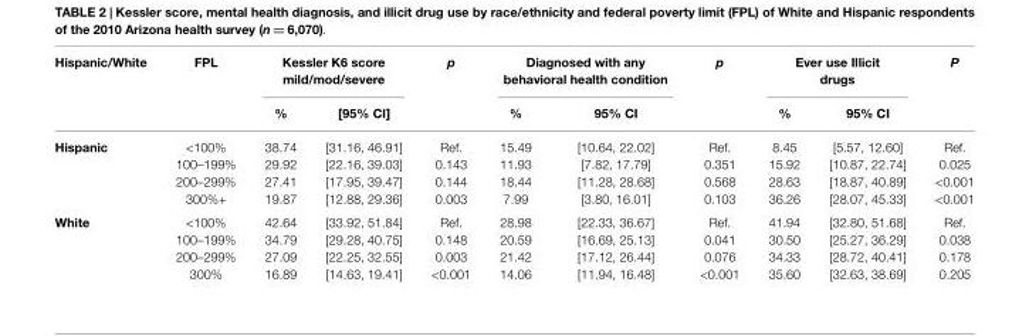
<table><thead><tr><td rowspan="2">Hispanic/White</td><td rowspan="2">FPL</td><td colspan="2">Kessler K6 score mild/mod/severe</td><td rowspan="2">p</td><td colspan="2">Diagnosed with any behavioral health condition</td><td rowspan="2">p</td><td colspan="2">Ever use Illicit drugs</td><td rowspan="2">P</td></tr><tr><td>%</td><td>[95% CI]</td><td>%</td><td>95% CI</td><td>%</td><td>95% CI</td></tr></thead><tbody><tr><td rowspan="4">Hispanic</td><td>&lt;100%</td><td>38.74</td><td>[31.16, 46.91]</td><td>Ref.</td><td>15.49</td><td>[10.64, 22.02]</td><td>Ref.</td><td>8.45</td><td>[5.57, 12.60]</td><td>Ref.</td></tr><tr><td>100–199%</td><td>29.92</td><td>[22.16, 39.03]</td><td>0.143</td><td>11.93</td><td>[7.82, 17.79]</td><td>0.351</td><td>15.92</td><td>[10.87, 22.74]</td><td>0.025</td></tr><tr><td>200–299%</td><td>27.41</td><td>[17.95, 39.47]</td><td>0.144</td><td>18.44</td><td>[11.28, 28.68]</td><td>0.568</td><td>28.63</td><td>[18.87, 40.89]</td><td>&lt;0.001</td></tr><tr><td>300%+</td><td>19.87</td><td>[12.88, 29.36]</td><td>0.003</td><td>7.99</td><td>[3.80, 16.01]</td><td>0.103</td><td>36.26</td><td>[28.07, 45.33]</td><td>&lt;0.001</td></tr><tr><td rowspan="4">White</td><td>&lt;100%</td><td>42.64</td><td>[33.92, 51.84]</td><td>Ref.</td><td>28.98</td><td>[22.33, 36.67]</td><td>Ref.</td><td>41.94</td><td>[32.80, 51.68]</td><td>Ref.</td></tr><tr><td>100–199%</td><td>34.79</td><td>[29.28, 40.75]</td><td>0.148</td><td>20.59</td><td>[16.69, 25.13]</td><td>0.041</td><td>30.50</td><td>[25.27, 36.29]</td><td>0.038</td></tr><tr><td>200–299%</td><td>27.09</td><td>[22.25, 32.55]</td><td>0.003</td><td>21.42</td><td>[17.12, 26.44]</td><td>0.076</td><td>34.33</td><td>[28.72, 40.41]</td><td>0.178</td></tr><tr><td>300%</td><td>16.89</td><td>[14.63, 19.41]</td><td>&lt;0.001</td><td>14.06</td><td>[11.94, 16.48]</td><td>&lt;0.001</td><td>35.60</td><td>[32.63, 38.69]</td><td>0.205</td></tr></tbody></table>